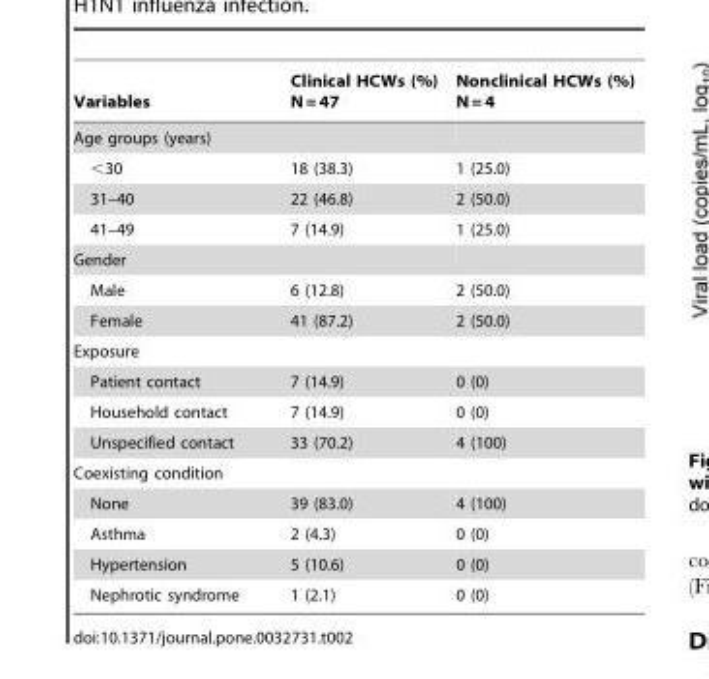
<table><thead><tr><td>Variables</td><td>Clinical HCWs (%) N = 47</td><td>Nonclinical HCWs (%) N = 4</td></tr></thead><tbody><tr><td colspan="3">Age groups (years)</td></tr><tr><td>&lt;30</td><td>18 (38.3)</td><td>1 (25.0)</td></tr><tr><td>31–40</td><td>22 (46.8)</td><td>2 (50.0)</td></tr><tr><td>41–49</td><td>7 (14.9)</td><td>1 (25.0)</td></tr><tr><td colspan="3">Gender</td></tr><tr><td>Male</td><td>6 (12.8)</td><td>2 (50.0)</td></tr><tr><td>Female</td><td>41 (87.2)</td><td>2 (50.0)</td></tr><tr><td colspan="3">Exposure</td></tr><tr><td>Patient contact</td><td>7 (14.9)</td><td>0 (0)</td></tr><tr><td>Household contact</td><td>7 (14.9)</td><td>0 (0)</td></tr><tr><td>Unspecified contact</td><td>33 (70.2)</td><td>4 (100)</td></tr><tr><td colspan="3">Coexisting condition</td></tr><tr><td>None</td><td>39 (83.0)</td><td>4 (100)</td></tr><tr><td>Asthma</td><td>2 (4.3)</td><td>0 (0)</td></tr><tr><td>Hypertension</td><td>5 (10.6)</td><td>0 (0)</td></tr><tr><td>Nephrotic syndrome</td><td>1 (2.1)</td><td>0 (0)</td></tr></tbody></table>